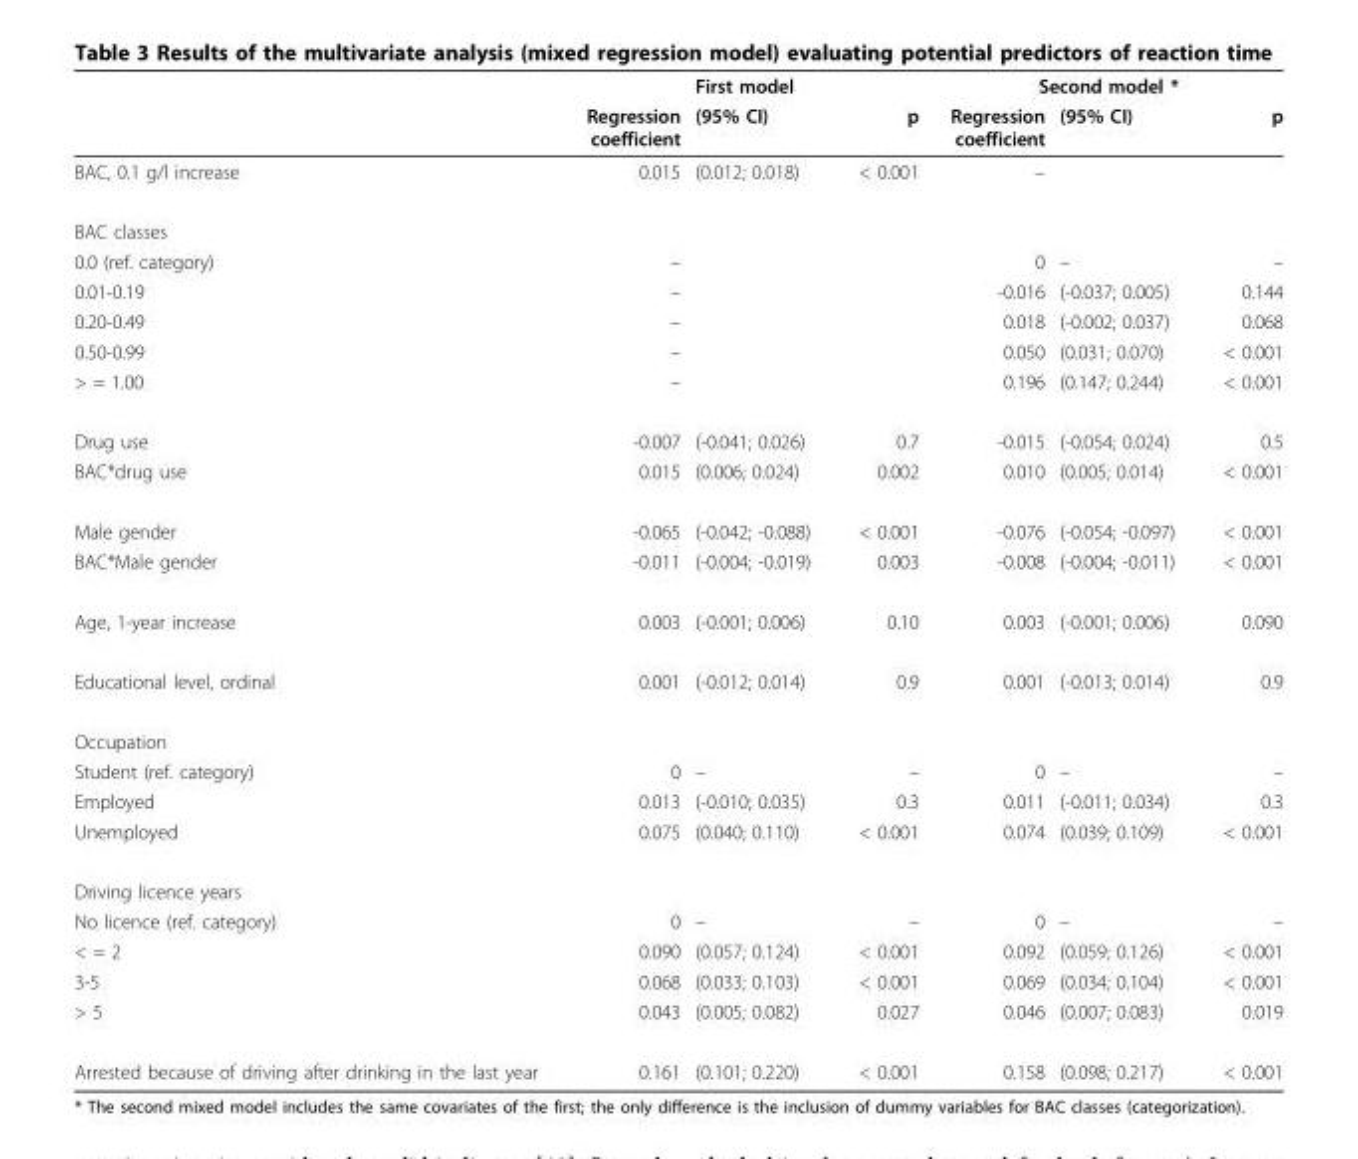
<table><thead><tr><td rowspan="2"></td><td colspan="3">First model</td><td colspan="3">Second model *</td></tr><tr><td>Regression coefficient</td><td>(95% CI)</td><td>p</td><td>Regression coefficient</td><td>(95% CI)</td><td>p</td></tr></thead><tbody><tr><td>BAC, 0.1 g/l increase</td><td>0.015</td><td>(0.012; 0.018)</td><td>&lt; 0.001</td><td>–</td><td></td><td></td></tr><tr><td colspan="7">BAC classes</td></tr><tr><td>0.0 (ref. category)</td><td>–</td><td></td><td></td><td>0</td><td>–</td><td>–</td></tr><tr><td>0.01-0.19</td><td>–</td><td></td><td></td><td>-0.016</td><td>(-0.037; 0.005)</td><td>0.144</td></tr><tr><td>0.20-0.49</td><td>–</td><td></td><td></td><td>0.018</td><td>(-0.002; 0.037)</td><td>0.068</td></tr><tr><td>0.50-0.99</td><td>–</td><td></td><td></td><td>0.050</td><td>(0.031; 0.070)</td><td>&lt; 0.001</td></tr><tr><td>&gt; = 1.00</td><td>–</td><td></td><td></td><td>0.196</td><td>(0.147; 0.244)</td><td>&lt; 0.001</td></tr><tr><td>Drug use</td><td>-0.007</td><td>(-0.041; 0.026)</td><td>0.7</td><td>-0.015</td><td>(-0.054; 0.024)</td><td>0.5</td></tr><tr><td>BAC*drug use</td><td>0.015</td><td>(0.006; 0.024)</td><td>0.002</td><td>0.010</td><td>(0.005; 0.014)</td><td>&lt; 0.001</td></tr><tr><td>Male gender</td><td>-0.065</td><td>(-0.042; -0.088)</td><td>&lt; 0.001</td><td>-0.076</td><td>(-0.054; -0.097)</td><td>&lt; 0.001</td></tr><tr><td>BAC*Male gender</td><td>-0.011</td><td>(-0.004; -0.019)</td><td>0.003</td><td>-0.008</td><td>(-0.004; -0.011)</td><td>&lt; 0.001</td></tr><tr><td>Age, 1-year increase</td><td>0.003</td><td>(-0.001; 0.006)</td><td>0.10</td><td>0.003</td><td>(-0.001; 0.006)</td><td>0.090</td></tr><tr><td>Educational level, ordinal</td><td>0.001</td><td>(-0.012; 0.014)</td><td>0.9</td><td>0.001</td><td>(-0.013; 0.014)</td><td>0.9</td></tr><tr><td colspan="7">Occupation</td></tr><tr><td>Student (ref. category)</td><td>0</td><td>–</td><td>–</td><td>0</td><td>–</td><td>–</td></tr><tr><td>Employed</td><td>0.013</td><td>(-0.010; 0.035)</td><td>0.3</td><td>0.011</td><td>(-0.011; 0.034)</td><td>0.3</td></tr><tr><td>Unemployed</td><td>0.075</td><td>(0.040; 0.110)</td><td>&lt; 0.001</td><td>0.074</td><td>(0.039; 0.109)</td><td>&lt; 0.001</td></tr><tr><td colspan="7">Driving licence years</td></tr><tr><td>No licence (ref. category)</td><td>0</td><td>–</td><td>–</td><td>0</td><td>–</td><td>–</td></tr><tr><td>&lt; = 2</td><td>0.090</td><td>(0.057; 0.124)</td><td>&lt; 0.001</td><td>0.092</td><td>(0.059; 0.126)</td><td>&lt; 0.001</td></tr><tr><td>3-5</td><td>0.068</td><td>(0.033; 0.103)</td><td>&lt; 0.001</td><td>0.069</td><td>(0.034; 0.104)</td><td>&lt; 0.001</td></tr><tr><td>&gt; 5</td><td>0.043</td><td>(0.005; 0.082)</td><td>0.027</td><td>0.046</td><td>(0.007; 0.083)</td><td>0.019</td></tr><tr><td>Arrested because of driving after drinking in the last year</td><td>0.161</td><td>(0.101; 0.220)</td><td>&lt; 0.001</td><td>0.158</td><td>(0.098; 0.217)</td><td>&lt; 0.001</td></tr></tbody></table>